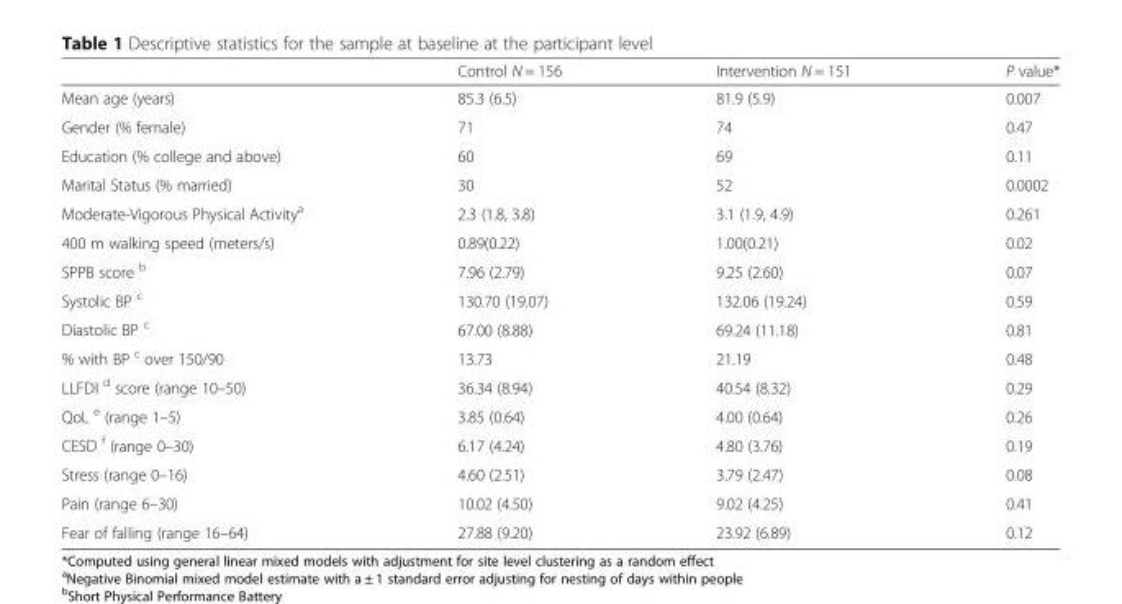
<table><thead><tr><td></td><td>Control N = 156</td><td>Intervention N = 151</td><td>P value*</td></tr></thead><tbody><tr><td>Mean age (years)</td><td>85.3 (6.5)</td><td>81.9 (5.9)</td><td>0.007</td></tr><tr><td>Gender (% female)</td><td>71</td><td>74</td><td>0.47</td></tr><tr><td>Education (% college and above)</td><td>60</td><td>69</td><td>0.11</td></tr><tr><td>Marital Status (% married)</td><td>30</td><td>52</td><td>0.0002</td></tr><tr><td>Moderate-Vigorous Physical Activity<sup>a</sup></td><td>2.3 (1.8, 3.8)</td><td>3.1 (1.9, 4.9)</td><td>0.261</td></tr><tr><td>400 m walking speed (meters/s)</td><td>0.89(0.22)</td><td>1.00(0.21)</td><td>0.02</td></tr><tr><td>SPPB score <sup>b</sup></td><td>7.96 (2.79)</td><td>9.25 (2.60)</td><td>0.07</td></tr><tr><td>Systolic BP <sup>c</sup></td><td>130.70 (19.07)</td><td>132.06 (19.24)</td><td>0.59</td></tr><tr><td>Diastolic BP <sup>c</sup></td><td>67.00 (8.88)</td><td>69.24 (11.18)</td><td>0.81</td></tr><tr><td>% with BP <sup>c</sup> over 150/90</td><td>13.73</td><td>21.19</td><td>0.48</td></tr><tr><td>LLFDI <sup>d</sup> score (range 10–50)</td><td>36.34 (8.94)</td><td>40.54 (8.32)</td><td>0.29</td></tr><tr><td>QoL <sup>e</sup> (range 1–5)</td><td>3.85 (0.64)</td><td>4.00 (0.64)</td><td>0.26</td></tr><tr><td>CESD <sup>f</sup> (range 0–30)</td><td>6.17 (4.24)</td><td>4.80 (3.76)</td><td>0.19</td></tr><tr><td>Stress (range 0–16)</td><td>4.60 (2.51)</td><td>3.79 (2.47)</td><td>0.08</td></tr><tr><td>Pain (range 6–30)</td><td>10.02 (4.50)</td><td>9.02 (4.25)</td><td>0.41</td></tr><tr><td>Fear of falling (range 16–64)</td><td>27.88 (9.20)</td><td>23.92 (6.89)</td><td>0.12</td></tr></tbody></table>